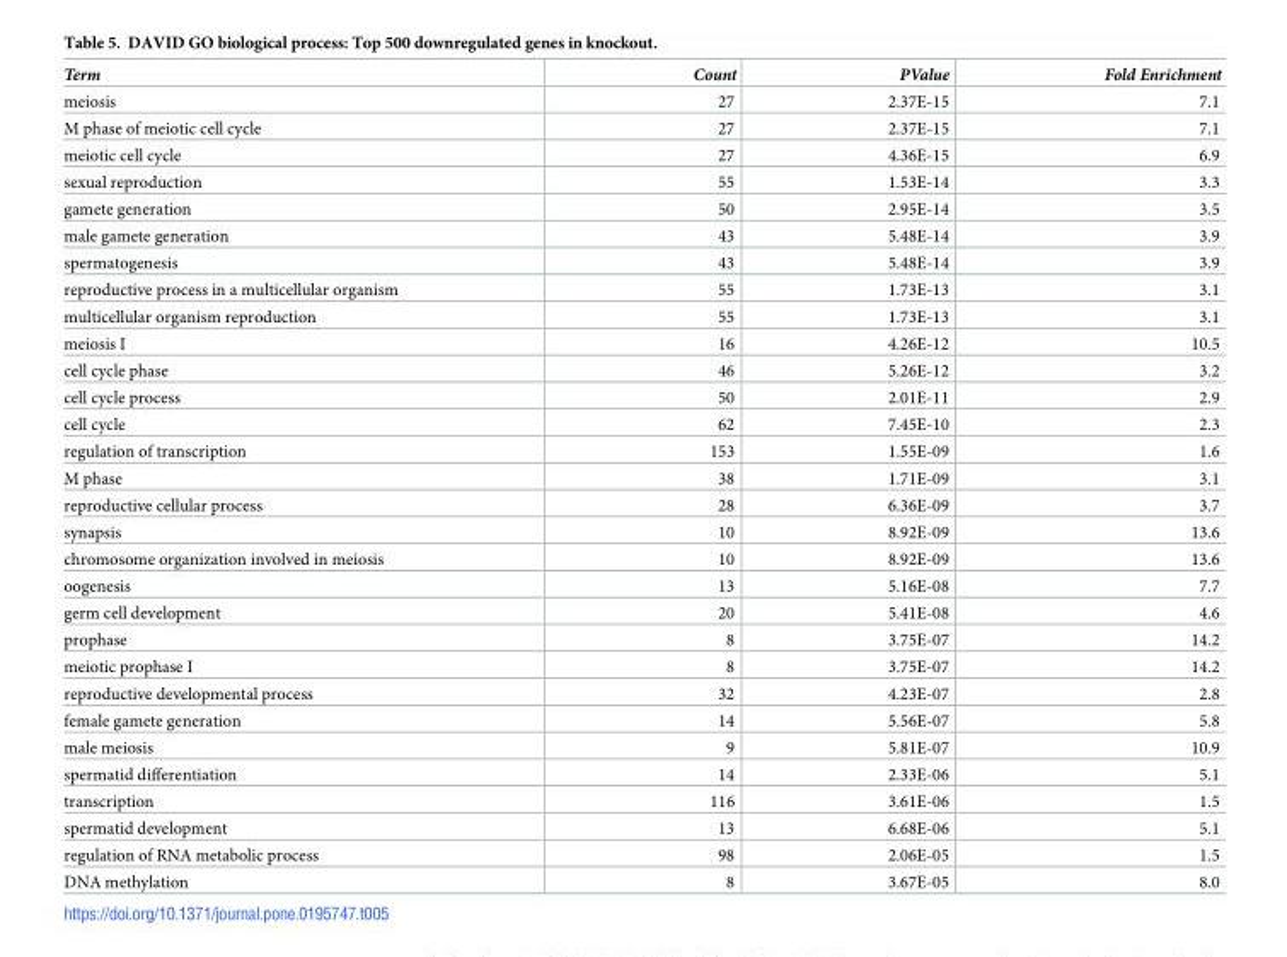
<table><thead><tr><td>Term</td><td>Count</td><td>PValue</td><td>Fold Enrichment</td></tr></thead><tbody><tr><td>meiosis</td><td>27</td><td>2.37E-15</td><td>7.1</td></tr><tr><td>M phase of meiotic cell cycle</td><td>27</td><td>2.37E-15</td><td>7.1</td></tr><tr><td>meiotic cell cycle</td><td>27</td><td>4.36E-15</td><td>6.9</td></tr><tr><td>sexual reproduction</td><td>55</td><td>1.53E-14</td><td>3.3</td></tr><tr><td>gamete generation</td><td>50</td><td>2.95E-14</td><td>3.5</td></tr><tr><td>male gamete generation</td><td>43</td><td>5.48E-14</td><td>3.9</td></tr><tr><td>spermatogenesis</td><td>43</td><td>5.48E-14</td><td>3.9</td></tr><tr><td>reproductive process in a multicellular organism</td><td>55</td><td>1.73E-13</td><td>3.1</td></tr><tr><td>multicellular organism reproduction</td><td>55</td><td>1.73E-13</td><td>3.1</td></tr><tr><td>meiosis I</td><td>16</td><td>4.26E-12</td><td>10.5</td></tr><tr><td>cell cycle phase</td><td>46</td><td>5.26E-12</td><td>3.2</td></tr><tr><td>cell cycle process</td><td>50</td><td>2.01E-11</td><td>2.9</td></tr><tr><td>cell cycle</td><td>62</td><td>7.45E-10</td><td>2.3</td></tr><tr><td>regulation of transcription</td><td>153</td><td>1.55E-09</td><td>1.6</td></tr><tr><td>M phase</td><td>38</td><td>1.71E-09</td><td>3.1</td></tr><tr><td>reproductive cellular process</td><td>28</td><td>6.36E-09</td><td>3.7</td></tr><tr><td>synapsis</td><td>10</td><td>8.92E-09</td><td>13.6</td></tr><tr><td>chromosome organization involved in meiosis</td><td>10</td><td>8.92E-09</td><td>13.6</td></tr><tr><td>oogenesis</td><td>13</td><td>5.16E-08</td><td>7.7</td></tr><tr><td>germ cell development</td><td>20</td><td>5.41E-08</td><td>4.6</td></tr><tr><td>prophase</td><td>8</td><td>3.75E-07</td><td>14.2</td></tr><tr><td>meiotic prophase I</td><td>8</td><td>3.75E-07</td><td>14.2</td></tr><tr><td>reproductive developmental process</td><td>32</td><td>4.23E-07</td><td>2.8</td></tr><tr><td>female gamete generation</td><td>14</td><td>5.56E-07</td><td>5.8</td></tr><tr><td>male meiosis</td><td>9</td><td>5.81E-07</td><td>10.9</td></tr><tr><td>spermatid differentiation</td><td>14</td><td>2.33E-06</td><td>5.1</td></tr><tr><td>transcription</td><td>116</td><td>3.61E-06</td><td>1.5</td></tr><tr><td>spermatid development</td><td>13</td><td>6.68E-06</td><td>5.1</td></tr><tr><td>regulation of RNA metabolic process</td><td>98</td><td>2.06E-05</td><td>1.5</td></tr><tr><td>DNA methylation</td><td>8</td><td>3.67E-05</td><td>8.0</td></tr></tbody></table>